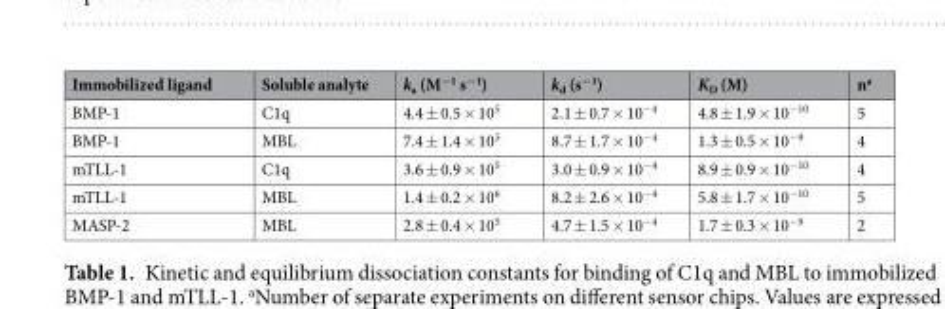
<table><thead><tr><td>Immobilized ligand</td><td>Soluble analyte</td><td>k<sub>a</sub> (M<sup>−1</sup> s<sup>−1</sup>)</td><td>k<sub>d</sub> (s<sup>−1</sup>)</td><td>K<sub>D</sub> (M)</td><td>n<sup>a</sup></td></tr></thead><tbody><tr><td>BMP-1</td><td>C1q</td><td>4.4 ± 0.5 × 10<sup>5</sup></td><td>2.1 ± 0.7 × 10<sup>−4</sup></td><td>4.8 ± 1.9 × 10<sup>−10</sup></td><td>5</td></tr><tr><td>BMP-1</td><td>MBL</td><td>7.4 ± 1.4 × 10<sup>5</sup></td><td>8.7 ± 1.7 × 10<sup>−4</sup></td><td>1.3 ± 0.5 × 10<sup>−9</sup></td><td>4</td></tr><tr><td>mTLL-1</td><td>C1q</td><td>3.6 ± 0.9 × 10<sup>5</sup></td><td>3.0 ± 0.9 × 10<sup>−4</sup></td><td>8.9 ± 0.9 × 10<sup>−10</sup></td><td>4</td></tr><tr><td>mTLL-1</td><td>MBL</td><td>1.4 ± 0.2 × 10<sup>6</sup></td><td>8.2 ± 2.6 × 10<sup>−4</sup></td><td>5.8 ± 1.7 × 10<sup>−10</sup></td><td>5</td></tr><tr><td>MASP-2</td><td>MBL</td><td>2.8 ± 0.4 × 10<sup>5</sup></td><td>4.7 ± 1.5 × 10<sup>−4</sup></td><td>1.7 ± 0.3 × 10<sup>−9</sup></td><td>2</td></tr></tbody></table>